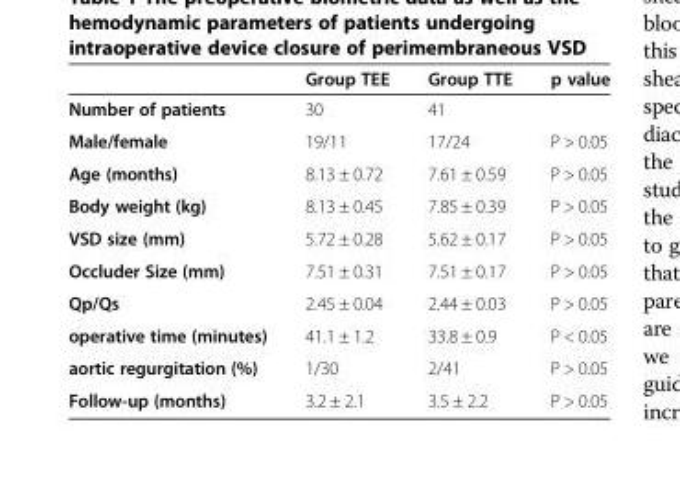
<table><thead><tr><td></td><td>Group TEE</td><td>Group TTE</td><td>p value</td></tr></thead><tbody><tr><td>Number of patients</td><td>30</td><td>41</td><td></td></tr><tr><td>Male/female</td><td>19/11</td><td>17/24</td><td>P &gt; 0.05</td></tr><tr><td>Age (months)</td><td>8.13 ± 0.72</td><td>7.61 ± 0.59</td><td>P &gt; 0.05</td></tr><tr><td>Body weight (kg)</td><td>8.13 ± 0.45</td><td>7.85 ± 0.39</td><td>P &gt; 0.05</td></tr><tr><td>VSD size (mm)</td><td>5.72 ± 0.28</td><td>5.62 ± 0.17</td><td>P &gt; 0.05</td></tr><tr><td>Occluder Size (mm)</td><td>7.51 ± 0.31</td><td>7.51 ± 0.17</td><td>P &gt; 0.05</td></tr><tr><td>Qp/Qs</td><td>2.45 ± 0.04</td><td>2.44 ± 0.03</td><td>P &gt; 0.05</td></tr><tr><td>operative time (minutes)</td><td>41.1 ± 1.2</td><td>33.8 ± 0.9</td><td>P &lt; 0.05</td></tr><tr><td>aortic regurgitation (%)</td><td>1/30</td><td>2/41</td><td>P &gt; 0.05</td></tr><tr><td>Follow-up (months)</td><td>3.2 ± 2.1</td><td>3.5 ± 2.2</td><td>P &gt; 0.05</td></tr></tbody></table>